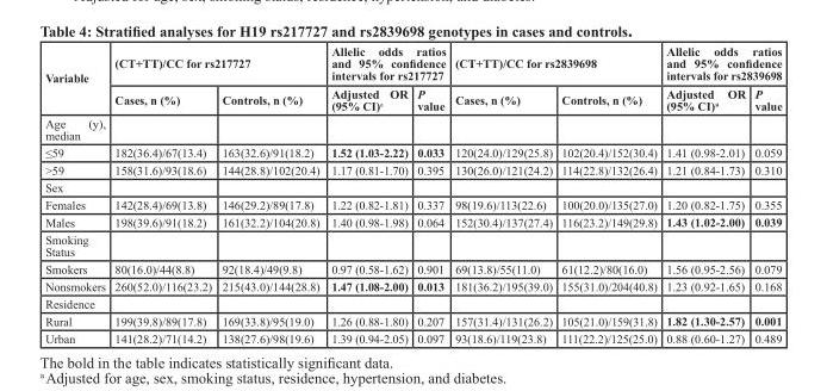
<table><thead><tr><td rowspan="2">Variable</td><td colspan="2">(CT+TT)/CC for rs217727</td><td colspan="2">Allelic odds ratios and 95% confidence intervals for rs217727</td><td colspan="2">(CT+TT)/CC for rs2839698</td><td colspan="2">Allelic odds ratios and 95% confidence intervals for rs2839698</td></tr><tr><td>Cases, n (%)</td><td>Controls, n (%)</td><td>Adjusted OR (95% CI)<sup>a</sup></td><td>P value</td><td>Cases, n (%)</td><td>Controls, n (%)</td><td>Adjusted OR (95% CI)<sup>a</sup></td><td>P value</td></tr></thead><tbody><tr><td colspan="9">Age (y), median</td></tr><tr><td>≤59</td><td>182(36.4)/67(13.4)</td><td>163(32.6)/91(18.2)</td><td>1.52 (1.03-2.22)</td><td>0.033</td><td>120(24.0)/129(25.8)</td><td>102(20.4)/152(30.4)</td><td>1.41 (0.98-2.01)</td><td>0.059</td></tr><tr><td>&gt;59</td><td>158(31.6)/93(18.6)</td><td>144(28.8)/102(20.4)</td><td>1.17 (0.81-1.70)</td><td>0.395</td><td>130(26.0)/121(24.2)</td><td>114(22.8)/132(26.4)</td><td>1.21 (0.84-1.73)</td><td>0.310</td></tr><tr><td colspan="9">Sex</td></tr><tr><td>Females</td><td>142(28.4)/69(13.8)</td><td>146(29.2)/89(17.8)</td><td>1.22 (0.82-1.81)</td><td>0.337</td><td>98(19.6)/113(22.6)</td><td>100(20.0)/135(27.0)</td><td>1.20 (0.82-1.75)</td><td>0.355</td></tr><tr><td>Males</td><td>198(39.6)/91(18.2)</td><td>161(32.2)/104(20.8)</td><td>1.40 (0.98-1.98)</td><td>0.064</td><td>152(30.4)/137(27.4)</td><td>116(23.2)/149(29.8)</td><td>1.43 (1.02-2.00)</td><td>0.039</td></tr><tr><td colspan="9">Smoking Status</td></tr><tr><td>Smokers</td><td>80(16.0)/44(8.8)</td><td>92(18.4)/49(9.8)</td><td>0.97 (0.58-1.62)</td><td>0.901</td><td>69(13.8)/55(11.0)</td><td>61(12.2)/80(16.0)</td><td>1.56 (0.95-2.56)</td><td>0.079</td></tr><tr><td>Nonsmokers</td><td>260(52.0)/116(23.2)</td><td>215(43.0)/144(28.8)</td><td>1.47 (1.08-2.00)</td><td>0.013</td><td>181(36.2)/195(39.0)</td><td>155(31.0)/204(40.8)</td><td>1.23 (0.92-1.65)</td><td>0.168</td></tr><tr><td colspan="9">Residence</td></tr><tr><td>Rural</td><td>199(39.8)/89(17.8)</td><td>169(33.8)/95(19.0)</td><td>1.26 (0.88-1.80)</td><td>0.207</td><td>157(31.4)/131(26.2)</td><td>105(21.0)/159(31.8)</td><td>1.82 (1.30-2.57)</td><td>0.001</td></tr><tr><td>Urban</td><td>141(28.2)/71(14.2)</td><td>138(27.6)/98(19.6)</td><td>1.39 (0.94-2.05)</td><td>0.097</td><td>93(18.6)/119(23.8)</td><td>111(22.2)/125(25.0)</td><td>0.88 (0.60-1.27)</td><td>0.489</td></tr></tbody></table>